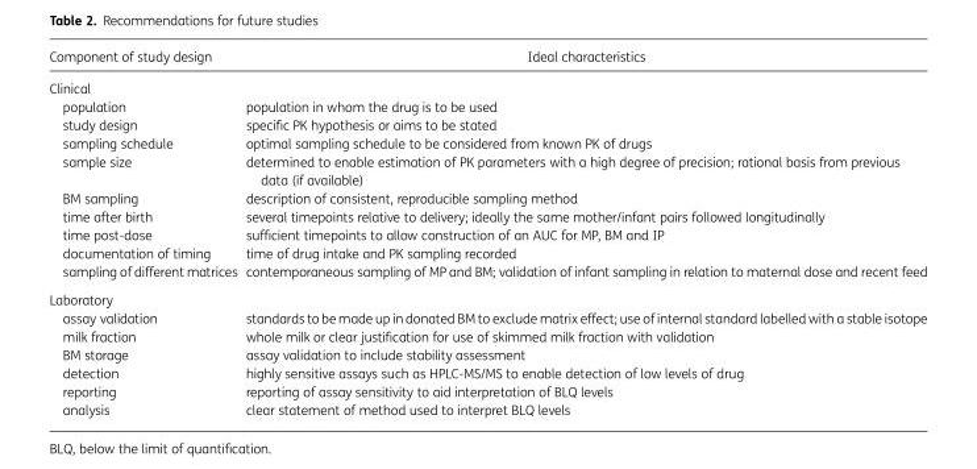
<table><thead><tr><td>Component of study design</td><td>Ideal characteristics</td></tr></thead><tbody><tr><td colspan="2">Clinical</td></tr><tr><td>population</td><td>population in whom the drug is to be used</td></tr><tr><td>study design</td><td>specific PK hypothesis or aims to be stated</td></tr><tr><td>sampling schedule</td><td>optimal sampling schedule to be considered from known PK of drugs</td></tr><tr><td>sample size</td><td>determined to enable estimation of PK parameters with a high degree of precision; rational basis from previous data (if available)</td></tr><tr><td>BM sampling</td><td>description of consistent, reproducible sampling method</td></tr><tr><td>time after birth</td><td>several timepoints relative to delivery; ideally the same mother/infant pairs followed longitudinally</td></tr><tr><td>time post-dose</td><td>sufficient timepoints to allow construction of an AUC for MP, BM and IP</td></tr><tr><td>documentation of timing</td><td>time of drug intake and PK sampling recorded</td></tr><tr><td>sampling of different matrices</td><td>contemporaneous sampling of MP and BM; validation of infant sampling in relation to maternal dose and recent feed</td></tr><tr><td colspan="2">Laboratory</td></tr><tr><td>assay validation</td><td>standards to be made up in donated BM to exclude matrix effect; use of internal standard labelled with a stable isotope</td></tr><tr><td>milk fraction</td><td>whole milk or clear justification for use of skimmed milk fraction with validation</td></tr><tr><td>BM storage</td><td>assay validation to include stability assessment</td></tr><tr><td>detection</td><td>highly sensitive assays such as HPLC-MS/MS to enable detection of low levels of drug</td></tr><tr><td>reporting</td><td>reporting of assay sensitivity to aid interpretation of BLQ levels</td></tr><tr><td>analysis</td><td>clear statement of method used to interpret BLQ levels</td></tr></tbody></table>